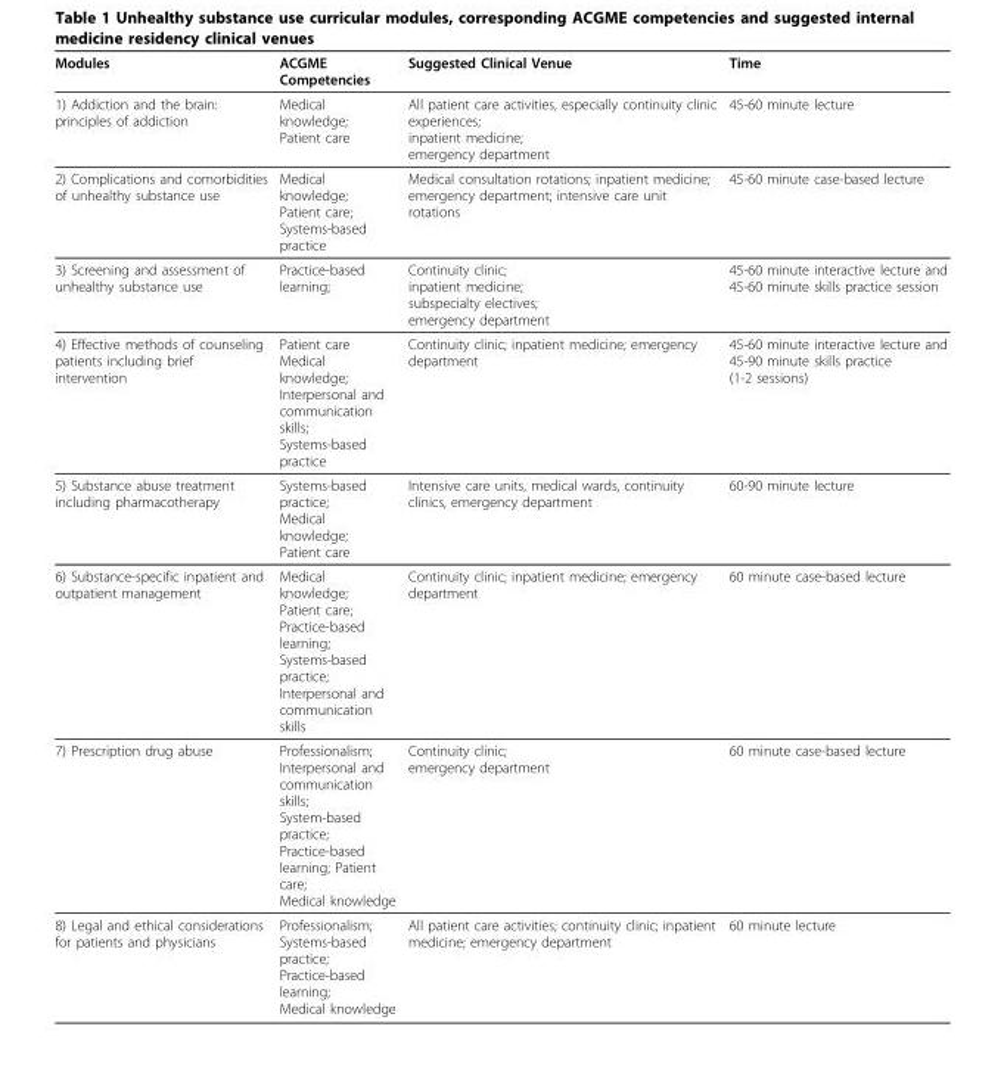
<table><thead><tr><td>Modules</td><td>ACGME Competencies</td><td>Suggested Clinical Venue</td><td>Time</td></tr></thead><tbody><tr><td>1) Addiction and the brain: principles of addiction</td><td>Medical knowledge; Patient care</td><td>All patient care activities, especially continuity clinic experiences; inpatient medicine; emergency department</td><td>45-60 minute lecture</td></tr><tr><td>2) Complications and comorbidities of unhealthy substance use</td><td>Medical knowledge; Patient care; Systems-based practice</td><td>Medical consultation rotations; inpatient medicine; emergency department; intensive care unit rotations</td><td>45-60 minute case-based lecture</td></tr><tr><td>3) Screening and assessment of unhealthy substance use</td><td>Practice-based learning;</td><td>Continuity clinic; inpatient medicine; subspecialty electives; emergency department</td><td>45-60 minute interactive lecture and 45-60 minute skills practice session</td></tr><tr><td>4) Effective methods of counseling patients including brief intervention</td><td>Patient care Medical knowledge; Interpersonal and communication skills; Systems-based practice</td><td>Continuity clinic; inpatient medicine; emergency department</td><td>45-60 minute interactive lecture and 45-90 minute skills practice (1-2 sessions)</td></tr><tr><td>5) Substance abuse treatment including pharmacotherapy</td><td>Systems-based practice; Medical knowledge; Patient care</td><td>Intensive care units, medical wards, continuity clinics, emergency department</td><td>60-90 minute lecture</td></tr><tr><td>6) Substance-specific inpatient and outpatient management</td><td>Medical knowledge; Patient care; Practice-based learning; Systems-based practice; Interpersonal and communication skills</td><td>Continuity clinic; inpatient medicine; emergency department</td><td>60 minute case-based lecture</td></tr><tr><td>7) Prescription drug abuse</td><td>Professionalism; Interpersonal and communication skills; System-based practice; Practice-based learning; Patient care; Medical knowledge</td><td>Continuity clinic; emergency department</td><td>60 minute case-based lecture</td></tr><tr><td>8) Legal and ethical considerations for patients and physicians</td><td>Professionalism; Systems-based practice; Practice-based learning; Medical knowledge</td><td>All patient care activities; continuity clinic; inpatient medicine; emergency department</td><td>60 minute lecture</td></tr></tbody></table>